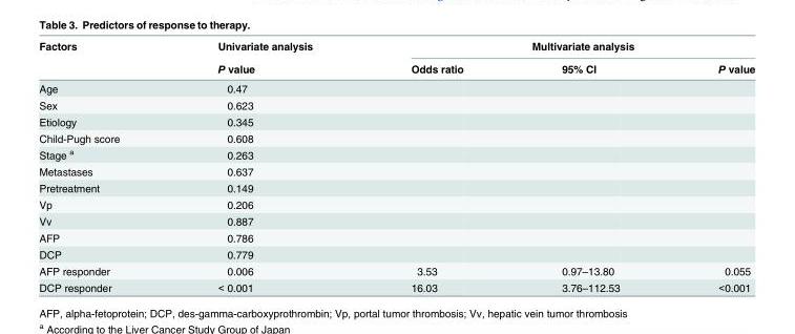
<table><thead><tr><td rowspan="2">Factors</td><td rowspan="2">Univariate analysis P value</td><td colspan="3">Multivariate analysis</td></tr><tr><td>Odds ratio</td><td>95% CI</td><td>P value</td></tr></thead><tbody><tr><td>Age</td><td>0.47</td><td></td><td></td><td></td></tr><tr><td>Sex</td><td>0.623</td><td></td><td></td><td></td></tr><tr><td>Etiology</td><td>0.345</td><td></td><td></td><td></td></tr><tr><td>Child-Pugh score</td><td>0.608</td><td></td><td></td><td></td></tr><tr><td>Stage <sup>a</sup></td><td>0.263</td><td></td><td></td><td></td></tr><tr><td>Metastases</td><td>0.637</td><td></td><td></td><td></td></tr><tr><td>Pretreatment</td><td>0.149</td><td></td><td></td><td></td></tr><tr><td>Vp</td><td>0.206</td><td></td><td></td><td></td></tr><tr><td>Vv</td><td>0.887</td><td></td><td></td><td></td></tr><tr><td>AFP</td><td>0.786</td><td></td><td></td><td></td></tr><tr><td>DCP</td><td>0.779</td><td></td><td></td><td></td></tr><tr><td>AFP responder</td><td>0.006</td><td>3.53</td><td>0.97–13.80</td><td>0.055</td></tr><tr><td>DCP responder</td><td>&lt; 0.001</td><td>16.03</td><td>3.76–112.53</td><td>&lt;0.001</td></tr></tbody></table>